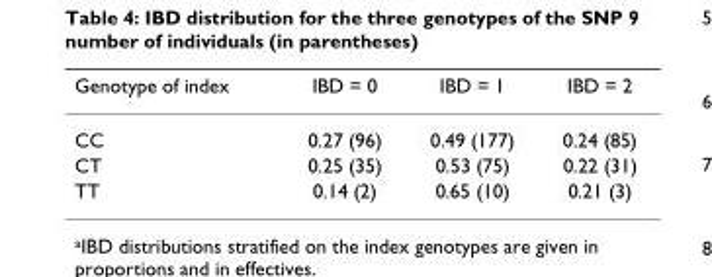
<table><thead><tr><td>Genotype of index</td><td>IBD = 0</td><td>IBD = 1</td><td>IBD = 2</td></tr></thead><tbody><tr><td>CC</td><td>0.27 (96)</td><td>0.49 (177)</td><td>0.24 (85)</td></tr><tr><td>CT</td><td>0.25 (35)</td><td>0.53 (75)</td><td>0.22 (31)</td></tr><tr><td>TT</td><td>0.14 (2)</td><td>0.65 (10)</td><td>0.21 (3)</td></tr></tbody></table>